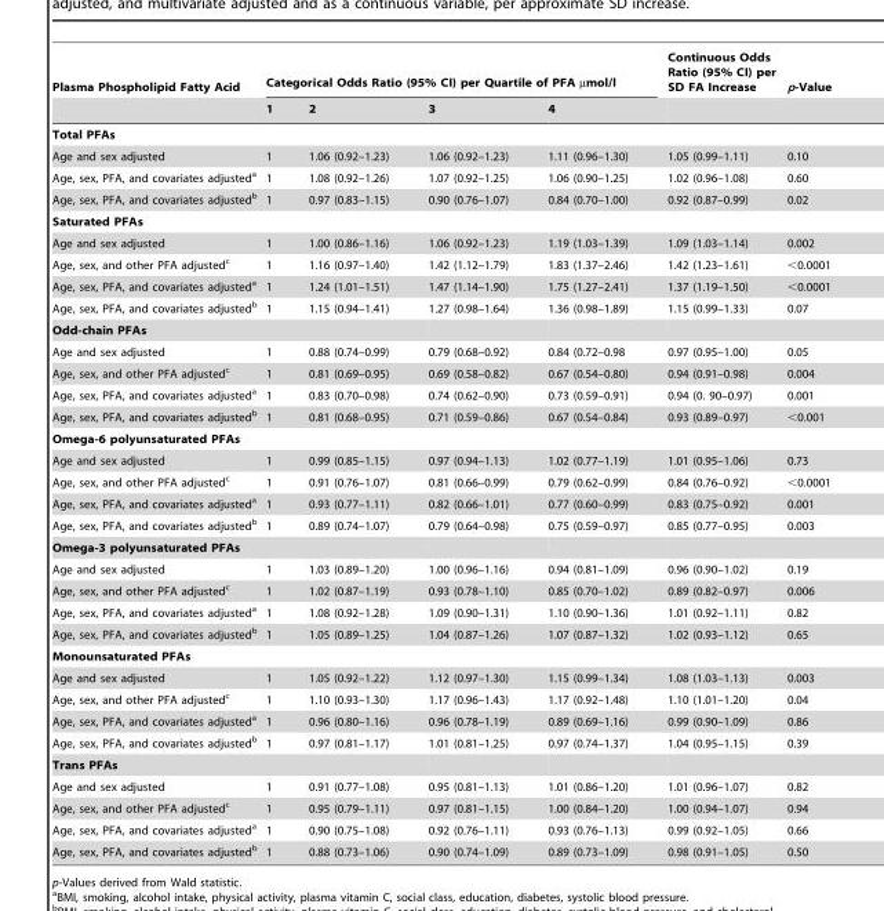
<table><thead><tr><td rowspan="2">Plasma Phospholipid Fatty Acid</td><td colspan="4">Categorical Odds Ratio (95% CI) per Quartile of PFA µmol/l</td><td rowspan="2">Continuous Odds Ratio (95% CI) per SD FA Increase</td><td rowspan="2">p-Value</td></tr><tr><td>1</td><td>2</td><td>3</td><td>4</td></tr></thead><tbody><tr><td colspan="7">Total PFAs</td></tr><tr><td>Age and sex adjusted</td><td>1</td><td>1.06 (0.92–1.23)</td><td>1.06 (0.92–1.23)</td><td>1.11 (0.96–1.30)</td><td>1.05 (0.99–1.11)</td><td>0.10</td></tr><tr><td>Age, sex, PFA, and covariates adjusted<sup>a</sup></td><td>1</td><td>1.08 (0.92–1.26)</td><td>1.07 (0.92–1.25)</td><td>1.06 (0.90–1.25)</td><td>1.02 (0.96–1.08)</td><td>0.60</td></tr><tr><td>Age, sex, PFA, and covariates adjusted<sup>b</sup></td><td>1</td><td>0.97 (0.83–1.15)</td><td>0.90 (0.76–1.07)</td><td>0.84 (0.70–1.00)</td><td>0.92 (0.87–0.99)</td><td>0.02</td></tr><tr><td colspan="7">Saturated PFAs</td></tr><tr><td>Age and sex adjusted</td><td>1</td><td>1.00 (0.86–1.16)</td><td>1.06 (0.92–1.23)</td><td>1.19 (1.03–1.39)</td><td>1.09 (1.03–1.14)</td><td>0.002</td></tr><tr><td>Age, sex, and other PFA adjusted<sup>c</sup></td><td>1</td><td>1.16 (0.97–1.40)</td><td>1.42 (1.12–1.79)</td><td>1.83 (1.37–2.46)</td><td>1.42 (1.23–1.61)</td><td>&lt;0.0001</td></tr><tr><td>Age, sex, PFA, and covariates adjusted<sup>a</sup></td><td>1</td><td>1.24 (1.01–1.51)</td><td>1.47 (1.14–1.90)</td><td>1.75 (1.27–2.41)</td><td>1.37 (1.19–1.50)</td><td>&lt;0.0001</td></tr><tr><td>Age, sex, PFA, and covariates adjusted<sup>b</sup></td><td>1</td><td>1.15 (0.94–1.41)</td><td>1.27 (0.98–1.64)</td><td>1.36 (0.98–1.89)</td><td>1.15 (0.99–1.33)</td><td>0.07</td></tr><tr><td colspan="7">Odd-chain PFAs</td></tr><tr><td>Age and sex adjusted</td><td>1</td><td>0.88 (0.74–0.99)</td><td>0.79 (0.68–0.92)</td><td>0.84 (0.72–0.98</td><td>0.97 (0.95–1.00)</td><td>0.05</td></tr><tr><td>Age, sex, and other PFA adjusted<sup>c</sup></td><td>1</td><td>0.81 (0.69–0.95)</td><td>0.69 (0.58–0.82)</td><td>0.67 (0.54–0.80)</td><td>0.94 (0.91–0.98)</td><td>0.004</td></tr><tr><td>Age, sex, PFA, and covariates adjusted<sup>a</sup></td><td>1</td><td>0.83 (0.70–0.98)</td><td>0.74 (0.62–0.90)</td><td>0.73 (0.59–0.91)</td><td>0.94 (0. 90–0.97)</td><td>0.001</td></tr><tr><td>Age, sex, PFA, and covariates adjusted<sup>b</sup></td><td>1</td><td>0.81 (0.68–0.95)</td><td>0.71 (0.59–0.86)</td><td>0.67 (0.54–0.84)</td><td>0.93 (0.89–0.97)</td><td>&lt;0.001</td></tr><tr><td colspan="7">Omega-6 polyunsaturated PFAs</td></tr><tr><td>Age and sex adjusted</td><td>1</td><td>0.99 (0.85–1.15)</td><td>0.97 (0.94–1.13)</td><td>1.02 (0.77–1.19)</td><td>1.01 (0.95–1.06)</td><td>0.73</td></tr><tr><td>Age, sex, and other PFA adjusted<sup>c</sup></td><td>1</td><td>0.91 (0.76–1.07)</td><td>0.81 (0.66–0.99)</td><td>0.79 (0.62–0.99)</td><td>0.84 (0.76–0.92)</td><td>&lt;0.0001</td></tr><tr><td>Age, sex, PFA, and covariates adjusted<sup>a</sup></td><td>1</td><td>0.93 (0.77–1.11)</td><td>0.82 (0.66–1.01)</td><td>0.77 (0.60–0.99)</td><td>0.83 (0.75–0.92)</td><td>0.001</td></tr><tr><td>Age, sex, PFA, and covariates adjusted<sup>b</sup></td><td>1</td><td>0.89 (0.74–1.07)</td><td>0.79 (0.64–0.98)</td><td>0.75 (0.59–0.97)</td><td>0.85 (0.77–0.95)</td><td>0.003</td></tr><tr><td colspan="7">Omega-3 polyunsaturated PFAs</td></tr><tr><td>Age and sex adjusted</td><td>1</td><td>1.03 (0.89–1.20)</td><td>1.00 (0.96–1.16)</td><td>0.94 (0.81–1.09)</td><td>0.96 (0.90–1.02)</td><td>0.19</td></tr><tr><td>Age, sex, and other PFA adjusted<sup>c</sup></td><td>1</td><td>1.02 (0.87–1.19)</td><td>0.93 (0.78–1.10)</td><td>0.85 (0.70–1.02)</td><td>0.89 (0.82–0.97)</td><td>0.006</td></tr><tr><td>Age, sex, PFA, and covariates adjusted<sup>a</sup></td><td>1</td><td>1.08 (0.92–1.28)</td><td>1.09 (0.90–1.31)</td><td>1.10 (0.90–1.36)</td><td>1.01 (0.92–1.11)</td><td>0.82</td></tr><tr><td>Age, sex, PFA, and covariates adjusted<sup>b</sup></td><td>1</td><td>1.05 (0.89–1.25)</td><td>1.04 (0.87–1.26)</td><td>1.07 (0.87–1.32)</td><td>1.02 (0.93–1.12)</td><td>0.65</td></tr><tr><td colspan="7">Monounsaturated PFAs</td></tr><tr><td>Age and sex adjusted</td><td>1</td><td>1.05 (0.92–1.22)</td><td>1.12 (0.97–1.30)</td><td>1.15 (0.99–1.34)</td><td>1.08 (1.03–1.13)</td><td>0.003</td></tr><tr><td>Age, sex, and other PFA adjusted<sup>c</sup></td><td>1</td><td>1.10 (0.93–1.30)</td><td>1.17 (0.96–1.43)</td><td>1.17 (0.92–1.48)</td><td>1.10 (1.01–1.20)</td><td>0.04</td></tr><tr><td>Age, sex, PFA, and covariates adjusted<sup>a</sup></td><td>1</td><td>0.96 (0.80–1.16)</td><td>0.96 (0.78–1.19)</td><td>0.89 (0.69–1.16)</td><td>0.99 (0.90–1.09)</td><td>0.86</td></tr><tr><td>Age, sex, PFA, and covariates adjusted<sup>b</sup></td><td>1</td><td>0.97 (0.81–1.17)</td><td>1.01 (0.81–1.25)</td><td>0.97 (0.74–1.37)</td><td>1.04 (0.95–1.15)</td><td>0.39</td></tr><tr><td colspan="7">Trans PFAs</td></tr><tr><td>Age and sex adjusted</td><td>1</td><td>0.91 (0.77–1.08)</td><td>0.95 (0.81–1.13)</td><td>1.01 (0.86–1.20)</td><td>1.01 (0.96–1.07)</td><td>0.82</td></tr><tr><td>Age, sex, and other PFA adjusted<sup>c</sup></td><td>1</td><td>0.95 (0.79–1.11)</td><td>0.97 (0.81–1.15)</td><td>1.00 (0.84–1.20)</td><td>1.00 (0.94–1.07)</td><td>0.94</td></tr><tr><td>Age, sex, PFA, and covariates adjusted<sup>a</sup></td><td>1</td><td>0.90 (0.75–1.08)</td><td>0.92 (0.76–1.11)</td><td>0.93 (0.76–1.13)</td><td>0.99 (0.92–1.05)</td><td>0.66</td></tr><tr><td>Age, sex, PFA, and covariates adjusted<sup>b</sup></td><td>1</td><td>0.88 (0.73–1.06)</td><td>0.90 (0.74–1.09)</td><td>0.89 (0.73–1.09)</td><td>0.98 (0.91–1.05)</td><td>0.50</td></tr></tbody></table>